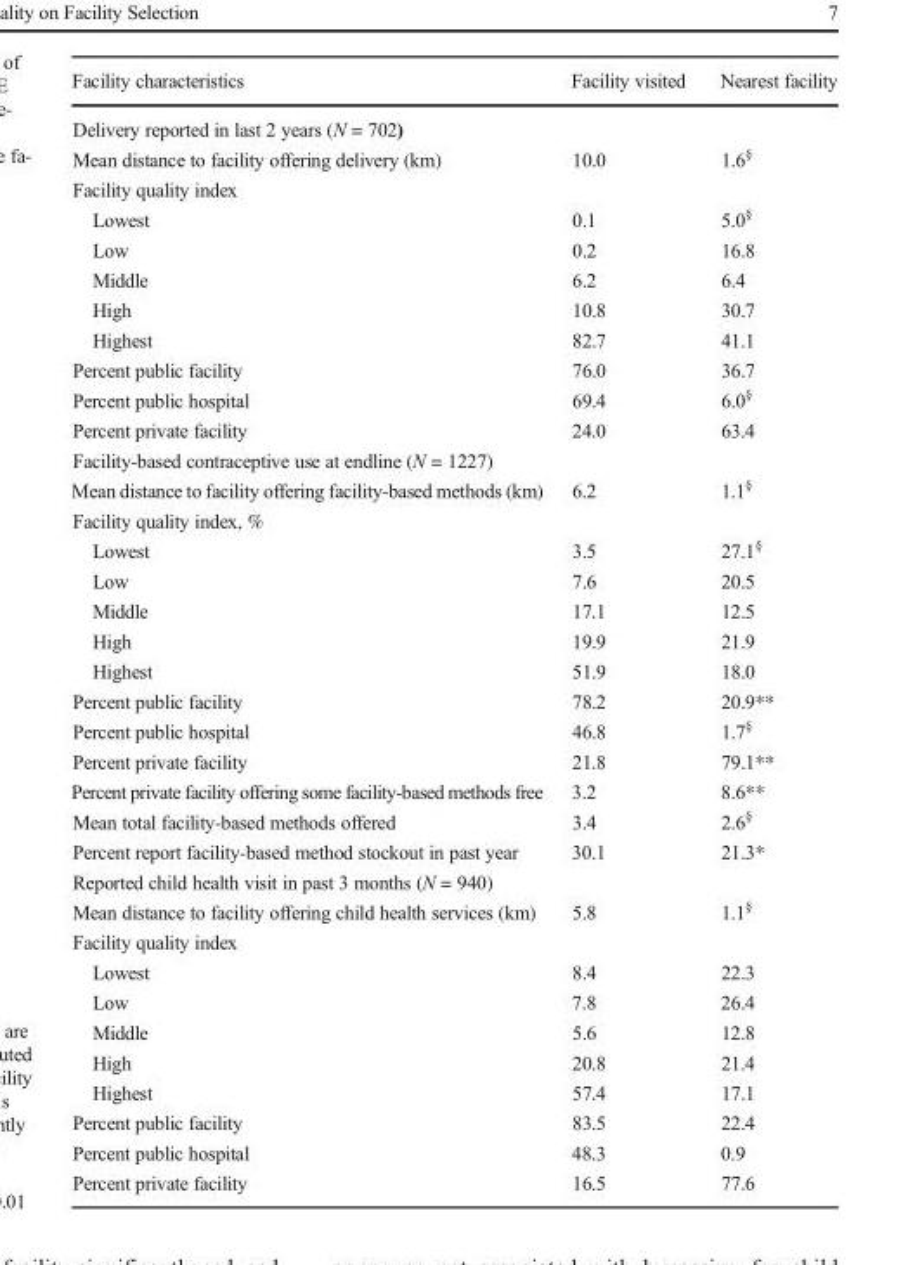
<table><thead><tr><td>Facility characteristics</td><td>Facility visited</td><td>Nearest facility</td></tr></thead><tbody><tr><td colspan="3">Delivery reported in last 2 years (N = 702)</td></tr><tr><td>Mean distance to facility offering delivery (km)</td><td>10.0</td><td>1.6<sup>§</sup></td></tr><tr><td colspan="3">Facility quality index</td></tr><tr><td>Lowest</td><td>0.1</td><td>5.0<sup>§</sup></td></tr><tr><td>Low</td><td>0.2</td><td>16.8</td></tr><tr><td>Middle</td><td>6.2</td><td>6.4</td></tr><tr><td>High</td><td>10.8</td><td>30.7</td></tr><tr><td>Highest</td><td>82.7</td><td>41.1</td></tr><tr><td>Percent public facility</td><td>76.0</td><td>36.7</td></tr><tr><td>Percent public hospital</td><td>69.4</td><td>6.0<sup>§</sup></td></tr><tr><td>Percent private facility</td><td>24.0</td><td>63.4</td></tr><tr><td colspan="3">Facility-based contraceptive use at endline (N = 1227)</td></tr><tr><td>Mean distance to facility offering facility-based methods (km)</td><td>6.2</td><td>1.1<sup>§</sup></td></tr><tr><td colspan="3">Facility quality index, %</td></tr><tr><td>Lowest</td><td>3.5</td><td>27.1<sup>§</sup></td></tr><tr><td>Low</td><td>7.6</td><td>20.5</td></tr><tr><td>Middle</td><td>17.1</td><td>12.5</td></tr><tr><td>High</td><td>19.9</td><td>21.9</td></tr><tr><td>Highest</td><td>51.9</td><td>18.0</td></tr><tr><td>Percent public facility</td><td>78.2</td><td>20.9**</td></tr><tr><td>Percent public hospital</td><td>46.8</td><td>1.7<sup>§</sup></td></tr><tr><td>Percent private facility</td><td>21.8</td><td>79.1**</td></tr><tr><td>Percent private facility offering some facility-based methods free</td><td>3.2</td><td>8.6**</td></tr><tr><td>Mean total facility-based methods offered</td><td>3.4</td><td>2.6<sup>§</sup></td></tr><tr><td>Percent report facility-based method stockout in past year</td><td>30.1</td><td>21.3*</td></tr><tr><td colspan="3">Reported child health visit in past 3 months (N = 940)</td></tr><tr><td>Mean distance to facility offering child health services (km)</td><td>5.8</td><td>1.1<sup>§</sup></td></tr><tr><td colspan="3">Facility quality index</td></tr><tr><td>Lowest</td><td>8.4</td><td>22.3</td></tr><tr><td>Low</td><td>7.8</td><td>26.4</td></tr><tr><td>Middle</td><td>5.6</td><td>12.8</td></tr><tr><td>High</td><td>20.8</td><td>21.4</td></tr><tr><td>Highest</td><td>57.4</td><td>17.1</td></tr><tr><td>Percent public facility</td><td>83.5</td><td>22.4</td></tr><tr><td>Percent public hospital</td><td>48.3</td><td>0.9</td></tr><tr><td>Percent private facility</td><td>16.5</td><td>77.6</td></tr></tbody></table>